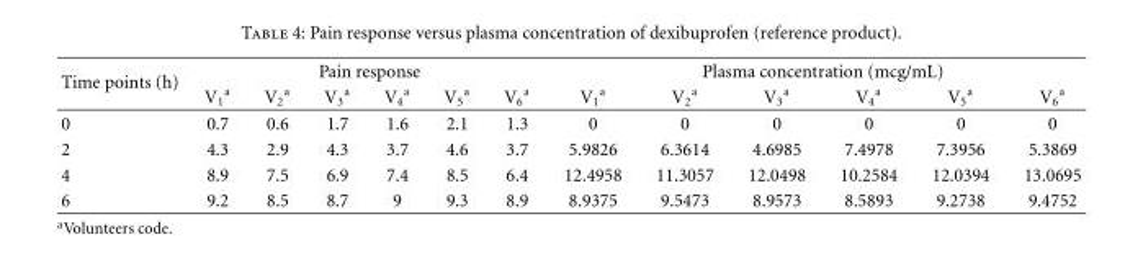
<table><thead><tr><td rowspan="2">Time points (h)</td><td colspan="6">Pain response</td><td colspan="6">Plasma concentration (mcg/mL)</td></tr><tr><td>V<sub>1</sub> <sup>a</sup></td><td>V<sub>2</sub> <sup>a</sup></td><td>V<sub>3</sub> <sup>a</sup></td><td>V<sub>4</sub> <sup>a</sup></td><td>V<sub>5</sub> <sup>a</sup></td><td>V<sub>6</sub> <sup>a</sup></td><td>V<sub>1</sub> <sup>a</sup></td><td>V<sub>2</sub> <sup>a</sup></td><td>V<sub>3</sub> <sup>a</sup></td><td>V<sub>4</sub> <sup>a</sup></td><td>V<sub>5</sub> <sup>a</sup></td><td>V<sub>6</sub> <sup>a</sup></td></tr></thead><tbody><tr><td>0</td><td>0.7</td><td>0.6</td><td>1.7</td><td>1.6</td><td>2.1</td><td>1.3</td><td>0</td><td>0</td><td>0</td><td>0</td><td>0</td><td>0</td></tr><tr><td>2</td><td>4.3</td><td>2.9</td><td>4.3</td><td>3.7</td><td>4.6</td><td>3.7</td><td>5.9826</td><td>6.3614</td><td>4.6985</td><td>7.4978</td><td>7.3956</td><td>5.3869</td></tr><tr><td>4</td><td>8.9</td><td>7.5</td><td>6.9</td><td>7.4</td><td>8.5</td><td>6.4</td><td>12.4958</td><td>11.3057</td><td>12.0498</td><td>10.2584</td><td>12.0394</td><td>13.0695</td></tr><tr><td>6</td><td>9.2</td><td>8.5</td><td>8.7</td><td>9</td><td>9.3</td><td>8.9</td><td>8.9375</td><td>9.5473</td><td>8.9573</td><td>8.5893</td><td>9.2738</td><td>9.4752</td></tr></tbody></table>